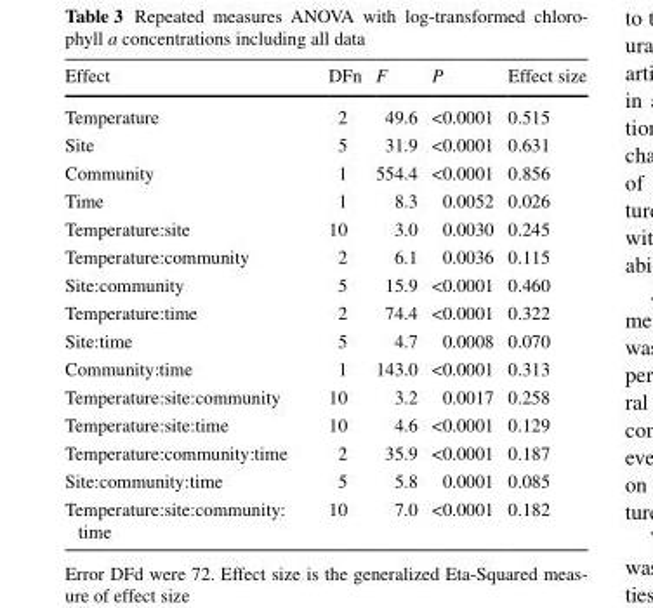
<table><thead><tr><td>Effect</td><td>DFn</td><td>F</td><td>P</td><td>Effect size</td></tr></thead><tbody><tr><td>Temperature</td><td>2</td><td>49.6</td><td>&lt;0.0001</td><td>0.515</td></tr><tr><td>Site</td><td>5</td><td>31.9</td><td>&lt;0.0001</td><td>0.631</td></tr><tr><td>Community</td><td>1</td><td>554.4</td><td>&lt;0.0001</td><td>0.856</td></tr><tr><td>Time</td><td>1</td><td>8.3</td><td>0.0052</td><td>0.026</td></tr><tr><td>Temperature:site</td><td>10</td><td>3.0</td><td>0.0030</td><td>0.245</td></tr><tr><td>Temperature:community</td><td>2</td><td>6.1</td><td>0.0036</td><td>0.115</td></tr><tr><td>Site:community</td><td>5</td><td>15.9</td><td>&lt;0.0001</td><td>0.460</td></tr><tr><td>Temperature:time</td><td>2</td><td>74.4</td><td>&lt;0.0001</td><td>0.322</td></tr><tr><td>Site:time</td><td>5</td><td>4.7</td><td>0.0008</td><td>0.070</td></tr><tr><td>Community:time</td><td>1</td><td>143.0</td><td>&lt;0.0001</td><td>0.313</td></tr><tr><td>Temperature:site:community</td><td>10</td><td>3.2</td><td>0.0017</td><td>0.258</td></tr><tr><td>Temperature:site:time</td><td>10</td><td>4.6</td><td>&lt;0.0001</td><td>0.129</td></tr><tr><td>Temperature:community:time</td><td>2</td><td>35.9</td><td>&lt;0.0001</td><td>0.187</td></tr><tr><td>Site:community:time</td><td>5</td><td>5.8</td><td>0.0001</td><td>0.085</td></tr><tr><td>Temperature:site:community: time</td><td>10</td><td>7.0</td><td>&lt;0.0001</td><td>0.182</td></tr></tbody></table>